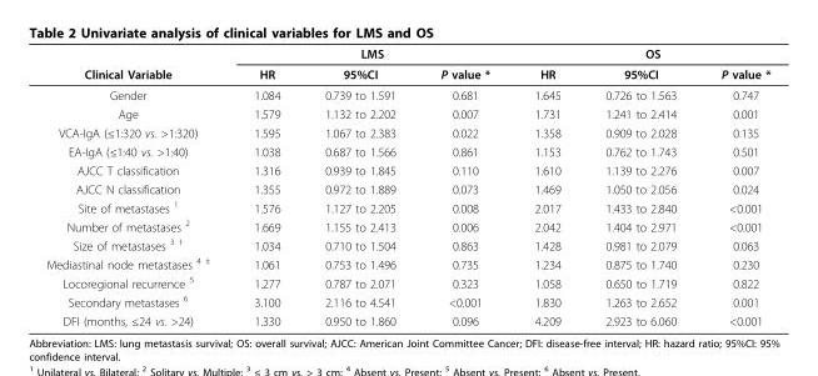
<table><thead><tr><td rowspan="2">Clinical Variable</td><td colspan="3">LMS</td><td colspan="3">OS</td></tr><tr><td>HR</td><td>95%CI</td><td>P value *</td><td>HR</td><td>95%CI</td><td>P value *</td></tr></thead><tbody><tr><td>Gender</td><td>1.084</td><td>0.739 to 1.591</td><td>0.681</td><td>1.645</td><td>0.726 to 1.563</td><td>0.747</td></tr><tr><td>Age</td><td>1.579</td><td>1.132 to 2.202</td><td>0.007</td><td>1.731</td><td>1.241 to 2.414</td><td>0.001</td></tr><tr><td>VCA-IgA (≤1:320 vs. &gt;1:320)</td><td>1.595</td><td>1.067 to 2.383</td><td>0.022</td><td>1.358</td><td>0.909 to 2.028</td><td>0.135</td></tr><tr><td>EA-IgA (≤1:40 vs. &gt;1:40)</td><td>1.038</td><td>0.687 to 1.566</td><td>0.861</td><td>1.153</td><td>0.762 to 1.743</td><td>0.501</td></tr><tr><td>AJCC T classification</td><td>1.316</td><td>0.939 to 1.845</td><td>0.110</td><td>1.610</td><td>1.139 to 2.276</td><td>0.007</td></tr><tr><td>AJCC N classification</td><td>1.355</td><td>0.972 to 1.889</td><td>0.073</td><td>1.469</td><td>1.050 to 2.056</td><td>0.024</td></tr><tr><td>Site of metastases <sup>1</sup></td><td>1.576</td><td>1.127 to 2.205</td><td>0.008</td><td>2.017</td><td>1.433 to 2.840</td><td>&lt;0.001</td></tr><tr><td>Number of metastases <sup>2</sup></td><td>1.669</td><td>1.155 to 2.413</td><td>0.006</td><td>2.042</td><td>1.404 to 2.971</td><td>&lt;0.001</td></tr><tr><td>Size of metastases <sup>3 †</sup></td><td>1.034</td><td>0.710 to 1.504</td><td>0.863</td><td>1.428</td><td>0.981 to 2.079</td><td>0.063</td></tr><tr><td>Mediastinal node metastases <sup>4 ‡</sup></td><td>1.061</td><td>0.753 to 1.496</td><td>0.735</td><td>1.234</td><td>0.875 to 1.740</td><td>0.230</td></tr><tr><td>Locoregional recurrence <sup>5</sup></td><td>1.277</td><td>0.787 to 2.071</td><td>0.323</td><td>1.058</td><td>0.650 to 1.719</td><td>0.822</td></tr><tr><td>Secondary metastases <sup>6</sup></td><td>3.100</td><td>2.116 to 4.541</td><td>&lt;0.001</td><td>1.830</td><td>1.263 to 2.652</td><td>0.001</td></tr><tr><td>DFI (months, ≤24 vs. &gt;24)</td><td>1.330</td><td>0.950 to 1.860</td><td>0.096</td><td>4.209</td><td>2.923 to 6.060</td><td>&lt;0.001</td></tr></tbody></table>